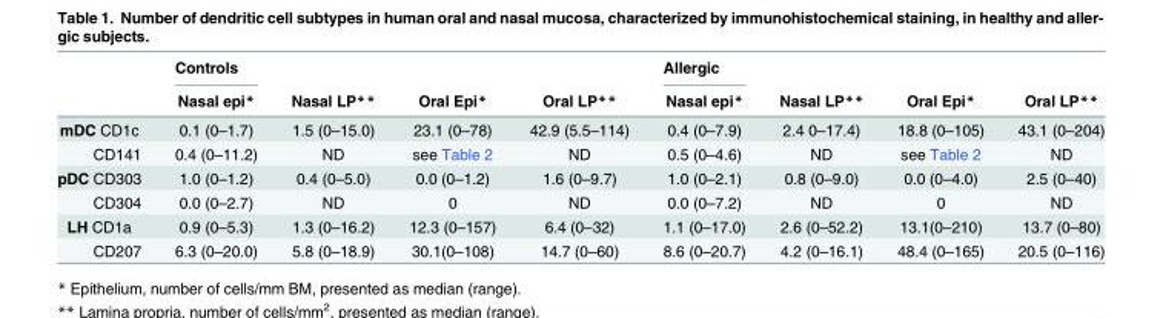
<table><thead><tr><td rowspan="2"></td><td rowspan="2">Controls Nasal epi*</td><td rowspan="2">Nasal LP**</td><td rowspan="2">Oral Epi*</td><td rowspan="2">Oral LP**</td><td rowspan="2">Allergic Nasal epi*</td><td rowspan="2">Nasal LP**</td><td rowspan="2">Oral Epi*</td><td rowspan="2">Oral LP**</td></tr><tr></tr></thead><tbody><tr><td>mDC CD1c</td><td>0.1 (0–1.7)</td><td>1.5 (0–15.0)</td><td>23.1 (0–78)</td><td>42.9 (5.5–114)</td><td>0.4 (0–7.9)</td><td>2.4 0–17.4)</td><td>18.8 (0–105)</td><td>43.1 (0–204)</td></tr><tr><td>CD141</td><td>0.4 (0–11.2)</td><td>ND</td><td>see Table 2</td><td>ND</td><td>0.5 (0–4.6)</td><td>ND</td><td>see Table 2</td><td>ND</td></tr><tr><td>pDC CD303</td><td>1.0 (0–1.2)</td><td>0.4 (0–5.0)</td><td>0.0 (0–1.2)</td><td>1.6 (0–9.7)</td><td>1.0 (0–2.1)</td><td>0.8 (0–9.0)</td><td>0.0 (0–4.0)</td><td>2.5 (0–40)</td></tr><tr><td>CD304</td><td>0.0 (0–2.7)</td><td>ND</td><td>0</td><td>ND</td><td>0.0 (0–7.2)</td><td>ND</td><td>0</td><td>ND</td></tr><tr><td>LH CD1a</td><td>0.9 (0–5.3)</td><td>1.3 (0–16.2)</td><td>12.3 (0–157)</td><td>6.4 (0–32)</td><td>1.1 (0–17.0)</td><td>2.6 (0–52.2)</td><td>13.1(0–210)</td><td>13.7 (0–80)</td></tr><tr><td>CD207</td><td>6.3 (0–20.0)</td><td>5.8 (0–18.9)</td><td>30.1(0–108)</td><td>14.7 (0–60)</td><td>8.6 (0–20.7)</td><td>4.2 (0–16.1)</td><td>48.4 (0–165)</td><td>20.5 (0–116)</td></tr></tbody></table>